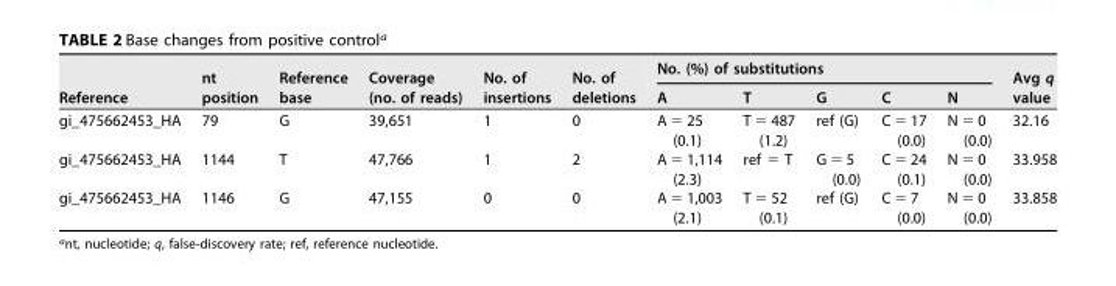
<table><thead><tr><td rowspan="2">Reference</td><td rowspan="2">nt position</td><td rowspan="2">Reference base</td><td rowspan="2">Coverage (no. of reads)</td><td rowspan="2">No. of insertions</td><td rowspan="2">No. of deletions</td><td colspan="5">No. (%) of substitutions</td><td rowspan="2">Avg q value</td></tr><tr><td>A</td><td>T</td><td>G</td><td>C</td><td>N</td></tr></thead><tbody><tr><td>gi_475662453_HA</td><td>79</td><td>G</td><td>39,651</td><td>1</td><td>0</td><td>A = 25 (0.1)</td><td>T = 487 (1.2)</td><td>ref (G)</td><td>C = 17 (0.0)</td><td>N = 0 (0.0)</td><td>32.16</td></tr><tr><td>gi_475662453_HA</td><td>1144</td><td>T</td><td>47,766</td><td>1</td><td>2</td><td>A = 1,114 (2.3)</td><td>ref = T</td><td>G = 5 (0.0)</td><td>C = 24 (0.1)</td><td>N = 0 (0.0)</td><td>33.958</td></tr><tr><td>gi_475662453_HA</td><td>1146</td><td>G</td><td>47,155</td><td>0</td><td>0</td><td>A = 1,003 (2.1)</td><td>T = 52 (0.1)</td><td>ref (G)</td><td>C = 7 (0.0)</td><td>N = 0 (0.0)</td><td>33.858</td></tr></tbody></table>